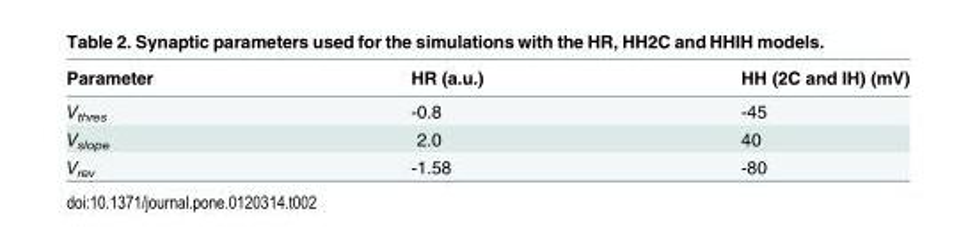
<table><thead><tr><td>Parameter</td><td>HR (a.u.)</td><td>HH (2C and IH) (mV)</td></tr></thead><tbody><tr><td>V<sub>thres</sub></td><td>-0.8</td><td>-45</td></tr><tr><td>V<sub>slope</sub></td><td>2.0</td><td>40</td></tr><tr><td>V<sub>rev</sub></td><td>-1.58</td><td>-80</td></tr></tbody></table>